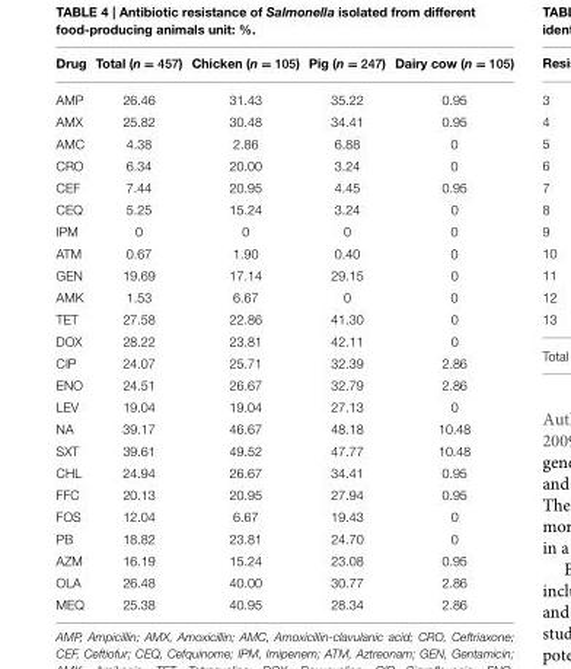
<table><thead><tr><td>Drug</td><td>Total (n = 457)</td><td>Chicken (n = 105)</td><td>Pig (n = 247)</td><td>Dairy cow (n = 105)</td></tr></thead><tbody><tr><td>AMP</td><td>26.46</td><td>31.43</td><td>35.22</td><td>0.95</td></tr><tr><td>AMX</td><td>25.82</td><td>30.48</td><td>34.41</td><td>0.95</td></tr><tr><td>AMC</td><td>4.38</td><td>2.86</td><td>6.88</td><td>0</td></tr><tr><td>CRO</td><td>6.34</td><td>20.00</td><td>3.24</td><td>0</td></tr><tr><td>CEF</td><td>7.44</td><td>20.95</td><td>4.45</td><td>0.95</td></tr><tr><td>CEQ</td><td>5.25</td><td>15.24</td><td>3.24</td><td>0</td></tr><tr><td>IPM</td><td>0</td><td>0</td><td>0</td><td>0</td></tr><tr><td>ATM</td><td>0.67</td><td>1.90</td><td>0.40</td><td>0</td></tr><tr><td>GEN</td><td>19.69</td><td>17.14</td><td>29.15</td><td>0</td></tr><tr><td>AMK</td><td>1.53</td><td>6.67</td><td>0</td><td>0</td></tr><tr><td>TET</td><td>27.58</td><td>22.86</td><td>41.30</td><td>0</td></tr><tr><td>DOX</td><td>28.22</td><td>23.81</td><td>42.11</td><td>0</td></tr><tr><td>CIP</td><td>24.07</td><td>25.71</td><td>32.39</td><td>2.86</td></tr><tr><td>ENO</td><td>24.51</td><td>26.67</td><td>32.79</td><td>2.86</td></tr><tr><td>LEV</td><td>19.04</td><td>19.04</td><td>27.13</td><td>0</td></tr><tr><td>NA</td><td>39.17</td><td>46.67</td><td>48.18</td><td>10.48</td></tr><tr><td>SXT</td><td>39.61</td><td>49.52</td><td>47.77</td><td>10.48</td></tr><tr><td>CHL</td><td>24.94</td><td>26.67</td><td>34.41</td><td>0.95</td></tr><tr><td>FFC</td><td>20.13</td><td>20.95</td><td>27.94</td><td>0.95</td></tr><tr><td>FOS</td><td>12.04</td><td>6.67</td><td>19.43</td><td>0</td></tr><tr><td>PB</td><td>18.82</td><td>23.81</td><td>24.70</td><td>0</td></tr><tr><td>AZM</td><td>16.19</td><td>15.24</td><td>23.08</td><td>0.95</td></tr><tr><td>OLA</td><td>26.48</td><td>40.00</td><td>30.77</td><td>2.86</td></tr><tr><td>MEQ</td><td>25.38</td><td>40.95</td><td>28.34</td><td>2.86</td></tr></tbody></table>